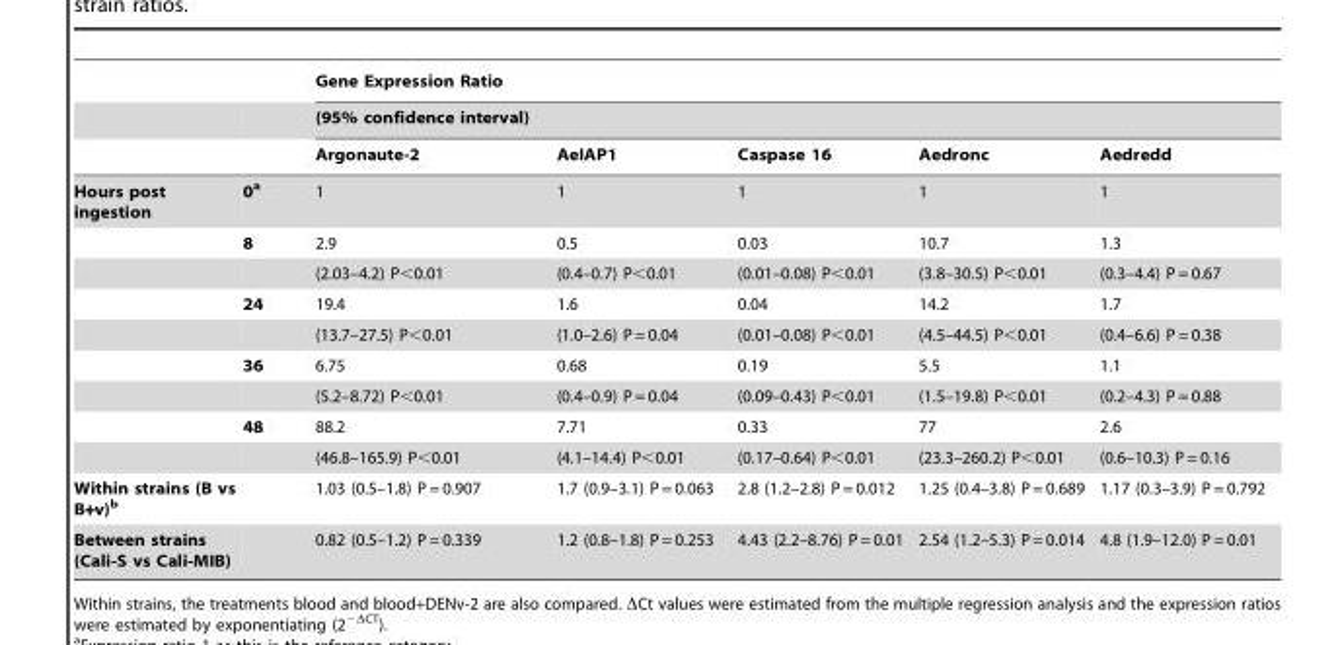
<table><thead><tr><td rowspan="3"></td><td rowspan="3"></td><td rowspan="2" colspan="5">Gene Expression Ratio (95% confidence interval)</td></tr><tr></tr><tr><td>Argonaute-2</td><td>AeIAP1</td><td>Caspase 16</td><td>Aedronc</td><td>Aedredd</td></tr></thead><tbody><tr><td rowspan="9">Hours post ingestion</td><td>0a</td><td>1</td><td>1</td><td>1</td><td>1</td><td>1</td></tr><tr><td>8</td><td>2.9</td><td>0.5</td><td>0.03</td><td>10.7</td><td>1.3</td></tr><tr><td></td><td>(2.03–4.2) P&lt;0.01</td><td>(0.4–0.7) P&lt;0.01</td><td>(0.01–0.08) P&lt;0.01</td><td>(3.8–30.5) P&lt;0.01</td><td>(0.3–4.4) P = 0.67</td></tr><tr><td>24</td><td>19.4</td><td>1.6</td><td>0.04</td><td>14.2</td><td>1.7</td></tr><tr><td></td><td>(13.7–27.5) P&lt;0.01</td><td>(1.0–2.6) P = 0.04</td><td>(0.01–0.08) P&lt;0.01</td><td>(4.5–44.5) P&lt;0.01</td><td>(0.4–6.6) P = 0.38</td></tr><tr><td>36</td><td>6.75</td><td>0.68</td><td>0.19</td><td>5.5</td><td>1.1</td></tr><tr><td></td><td>(5.2–8.72) P&lt;0.01</td><td>(0.4–0.9) P = 0.04</td><td>(0.09–0.43) P&lt;0.01</td><td>(1.5–19.8) P&lt;0.01</td><td>(0.2–4.3) P = 0.88</td></tr><tr><td>48</td><td>88.2</td><td>7.71</td><td>0.33</td><td>77</td><td>2.6</td></tr><tr><td></td><td>(46.8–165.9) P&lt;0.01</td><td>(4.1–14.4) P&lt;0.01</td><td>(0.17–0.64) P&lt;0.01</td><td>(23.3–260.2) P&lt;0.01</td><td>(0.6–10.3) P = 0.16</td></tr><tr><td>Within strains (B vs B+v)b</td><td></td><td>1.03 (0.5–1.8) P = 0.907</td><td>1.7 (0.9–3.1) P = 0.063</td><td>2.8 (1.2–2.8) P = 0.012</td><td>1.25 (0.4–3.8) P = 0.689</td><td>1.17 (0.3–3.9) P = 0.792</td></tr><tr><td>Between strains (Cali-S vs Cali-MIB)</td><td></td><td>0.82 (0.5–1.2) P = 0.339</td><td>1.2 (0.8–1.8) P = 0.253</td><td>4.43 (2.2–8.76) P = 0.01</td><td>2.54 (1.2–5.3) P = 0.014</td><td>4.8 (1.9–12.0) P = 0.01</td></tr></tbody></table>